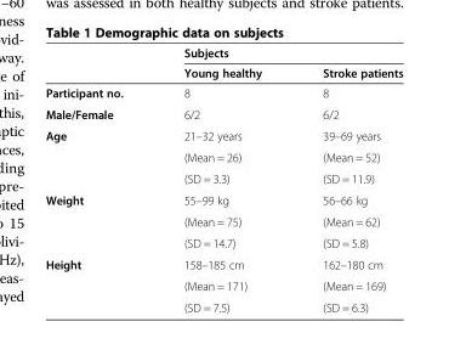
<table><thead><tr><td rowspan="2"></td><td colspan="2">Subjects</td></tr><tr><td>Young healthy</td><td>Stroke patients</td></tr></thead><tbody><tr><td>Participant no.</td><td>8</td><td>8</td></tr><tr><td>Male/Female</td><td>6/2</td><td>6/2</td></tr><tr><td rowspan="3">Age</td><td>21–32 years</td><td>39–69 years</td></tr><tr><td>(Mean = 26)</td><td>(Mean = 52)</td></tr><tr><td>(SD = 3.3)</td><td>(SD = 11.9)</td></tr><tr><td rowspan="3">Weight</td><td>55–99 kg</td><td>56–66 kg</td></tr><tr><td>(Mean = 75)</td><td>(Mean = 62)</td></tr><tr><td>(SD = 14.7)</td><td>(SD = 5.8)</td></tr><tr><td rowspan="3">Height</td><td>158–185 cm</td><td>162–180 cm</td></tr><tr><td>(Mean = 171)</td><td>(Mean = 169)</td></tr><tr><td>(SD = 7.5)</td><td>(SD = 6.3)</td></tr></tbody></table>